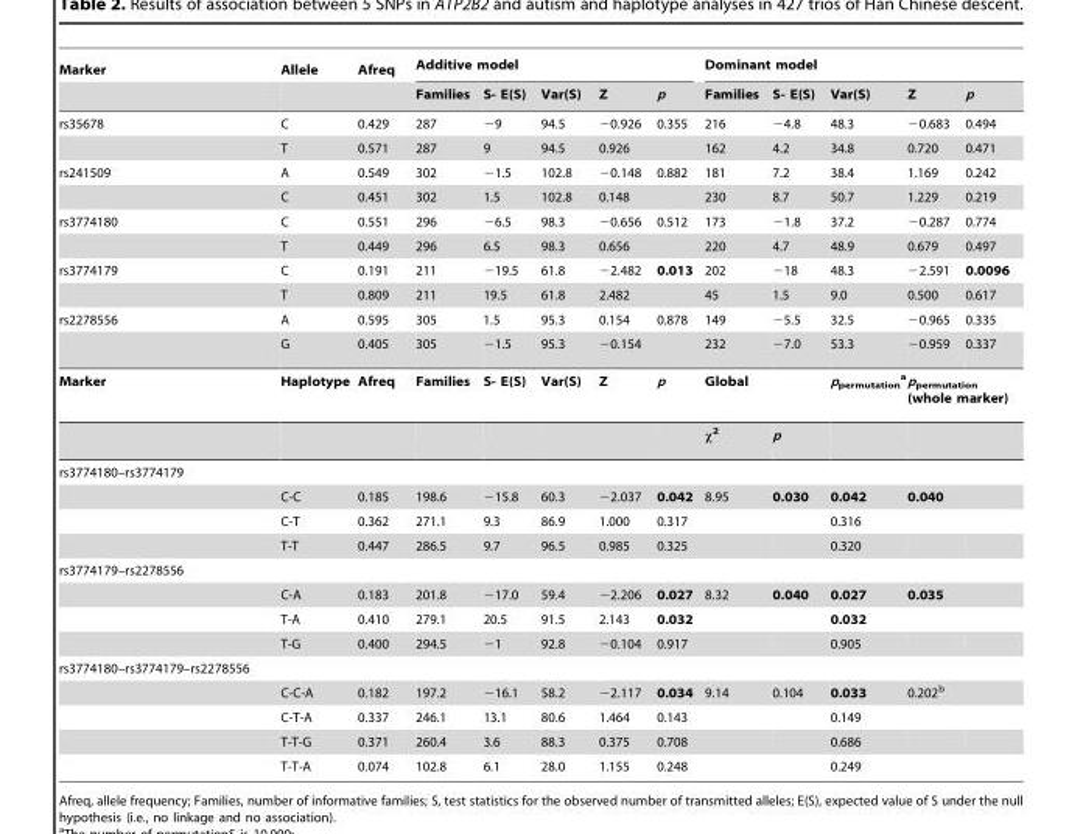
<table><thead><tr><td rowspan="2">Marker</td><td rowspan="2">Allele</td><td rowspan="2">Afreq</td><td colspan="5">Additive model</td><td colspan="5">Dominant model</td></tr><tr><td>Families</td><td>S- E(S)</td><td>Var(S)</td><td>Z</td><td>p</td><td>Families</td><td>S- E(S)</td><td>Var(S)</td><td>Z</td><td>p</td></tr></thead><tbody><tr><td rowspan="2">rs35678</td><td>C</td><td>0.429</td><td>287</td><td>−9</td><td>94.5</td><td>−0.926</td><td>0.355</td><td>216</td><td>−4.8</td><td>48.3</td><td>−0.683</td><td>0.494</td></tr><tr><td>T</td><td>0.571</td><td>287</td><td>9</td><td>94.5</td><td>0.926</td><td></td><td>162</td><td>4.2</td><td>34.8</td><td>0.720</td><td>0.471</td></tr><tr><td rowspan="2">rs241509</td><td>A</td><td>0.549</td><td>302</td><td>−1.5</td><td>102.8</td><td>−0.148</td><td>0.882</td><td>181</td><td>7.2</td><td>38.4</td><td>1.169</td><td>0.242</td></tr><tr><td>C</td><td>0.451</td><td>302</td><td>1.5</td><td>102.8</td><td>0.148</td><td></td><td>230</td><td>8.7</td><td>50.7</td><td>1.229</td><td>0.219</td></tr><tr><td rowspan="2">rs3774180</td><td>C</td><td>0.551</td><td>296</td><td>−6.5</td><td>98.3</td><td>−0.656</td><td>0.512</td><td>173</td><td>−1.8</td><td>37.2</td><td>−0.287</td><td>0.774</td></tr><tr><td>T</td><td>0.449</td><td>296</td><td>6.5</td><td>98.3</td><td>0.656</td><td></td><td>220</td><td>4.7</td><td>48.9</td><td>0.679</td><td>0.497</td></tr><tr><td rowspan="2">rs3774179</td><td>C</td><td>0.191</td><td>211</td><td>−19.5</td><td>61.8</td><td>−2.482</td><td>0.013</td><td>202</td><td>−18</td><td>48.3</td><td>−2.591</td><td>0.0096</td></tr><tr><td>T</td><td>0.809</td><td>211</td><td>19.5</td><td>61.8</td><td>2.482</td><td></td><td>45</td><td>1.5</td><td>9.0</td><td>0.500</td><td>0.617</td></tr><tr><td rowspan="2">rs2278556</td><td>A</td><td>0.595</td><td>305</td><td>1.5</td><td>95.3</td><td>0.154</td><td>0.878</td><td>149</td><td>−5.5</td><td>32.5</td><td>−0.965</td><td>0.335</td></tr><tr><td>G</td><td>0.405</td><td>305</td><td>−1.5</td><td>95.3</td><td>−0.154</td><td></td><td>232</td><td>−7.0</td><td>53.3</td><td>−0.959</td><td>0.337</td></tr><tr><td rowspan="2">Marker</td><td>Haplotype</td><td>Afreq</td><td>Families</td><td>S- E(S)</td><td>Var(S)</td><td>Z</td><td>p</td><td colspan="2">Global</td><td>ppermutation</td><td colspan="2">appermutation (whole marker)</td></tr><tr><td></td><td></td><td></td><td></td><td></td><td></td><td></td><td>χ<sup>2</sup></td><td>p</td><td></td><td colspan="2"></td></tr><tr><td colspan="13">rs3774180–rs3774179</td></tr><tr><td></td><td>C-C</td><td>0.185</td><td>198.6</td><td>−15.8</td><td>60.3</td><td>−2.037</td><td>0.042</td><td>8.95</td><td>0.030</td><td>0.042</td><td colspan="2">0.040</td></tr><tr><td></td><td>C-T</td><td>0.362</td><td>271.1</td><td>9.3</td><td>86.9</td><td>1.000</td><td>0.317</td><td></td><td></td><td>0.316</td><td></td><td></td></tr><tr><td></td><td>T-T</td><td>0.447</td><td>286.5</td><td>9.7</td><td>96.5</td><td>0.985</td><td>0.325</td><td></td><td></td><td>0.320</td><td></td><td></td></tr><tr><td colspan="13">rs3774179–rs2278556</td></tr><tr><td></td><td>C-A</td><td>0.183</td><td>201.8</td><td>−17.0</td><td>59.4</td><td>−2.206</td><td>0.027</td><td>8.32</td><td>0.040</td><td>0.027</td><td colspan="2">0.035</td></tr><tr><td></td><td>T-A</td><td>0.410</td><td>279.1</td><td>20.5</td><td>91.5</td><td>2.143</td><td>0.032</td><td></td><td></td><td>0.032</td><td></td><td></td></tr><tr><td></td><td>T-G</td><td>0.400</td><td>294.5</td><td>−1</td><td>92.8</td><td>−0.104</td><td>0.917</td><td></td><td></td><td>0.905</td><td></td><td></td></tr><tr><td colspan="13">rs3774180–rs3774179–rs2278556</td></tr><tr><td></td><td>C-C-A</td><td>0.182</td><td>197.2</td><td>−16.1</td><td>58.2</td><td>−2.117</td><td>0.034</td><td>9.14</td><td>0.104</td><td>0.033</td><td colspan="2">0.202<sup>b</sup></td></tr><tr><td></td><td>C-T-A</td><td>0.337</td><td>246.1</td><td>13.1</td><td>80.6</td><td>1.464</td><td>0.143</td><td></td><td></td><td>0.149</td><td></td><td></td></tr><tr><td></td><td>T-T-G</td><td>0.371</td><td>260.4</td><td>3.6</td><td>88.3</td><td>0.375</td><td>0.708</td><td></td><td></td><td>0.686</td><td></td><td></td></tr><tr><td></td><td>T-T-A</td><td>0.074</td><td>102.8</td><td>6.1</td><td>28.0</td><td>1.155</td><td>0.248</td><td></td><td></td><td>0.249</td><td></td><td></td></tr></tbody></table>